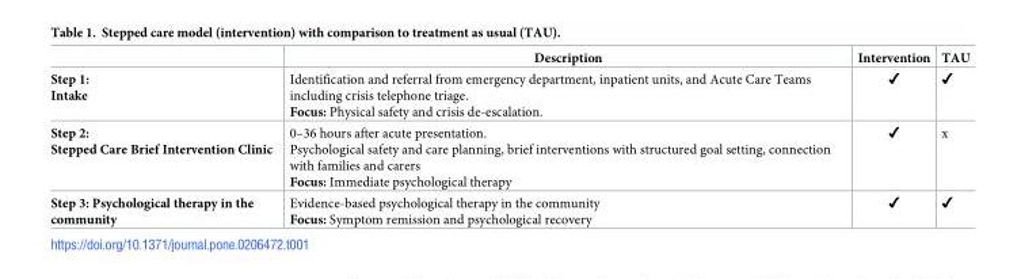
<table><thead><tr><td></td><td>Description</td><td>Intervention</td><td>TAU</td></tr></thead><tbody><tr><td>Step 1: Intake</td><td>Identification and referral from emergency department, inpatient units, and Acute Care Teams including crisis telephone triage. Focus: Physical safety and crisis de-escalation.</td><td>✔</td><td>✔</td></tr><tr><td>Step 2: Stepped Care Brief Intervention Clinic</td><td>0–36 hours after acute presentation. Psychological safety and care planning, brief interventions with structured goal setting, connection with families and carers Focus: Immediate psychological therapy</td><td>✔</td><td>x</td></tr><tr><td>Step 3: Psychological therapy in the community</td><td>Evidence-based psychological therapy in the community Focus: Symptom remission and psychological recovery</td><td>✔</td><td>✔</td></tr></tbody></table>